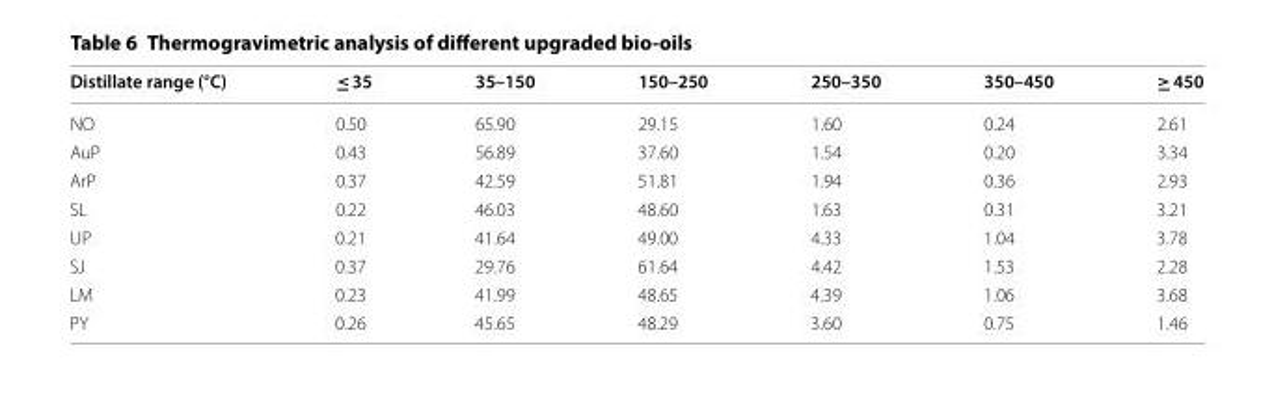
<table><thead><tr><td>Distillate range (°C)</td><td>≤ 35</td><td>35–150</td><td>150–250</td><td>250–350</td><td>350–450</td><td>≥ 450</td></tr></thead><tbody><tr><td>NO</td><td>0.50</td><td>65.90</td><td>29.15</td><td>1.60</td><td>0.24</td><td>2.61</td></tr><tr><td>AuP</td><td>0.43</td><td>56.89</td><td>37.60</td><td>1.54</td><td>0.20</td><td>3.34</td></tr><tr><td>ArP</td><td>0.37</td><td>42.59</td><td>51.81</td><td>1.94</td><td>0.36</td><td>2.93</td></tr><tr><td>SL</td><td>0.22</td><td>46.03</td><td>48.60</td><td>1.63</td><td>0.31</td><td>3.21</td></tr><tr><td>UP</td><td>0.21</td><td>41.64</td><td>49.00</td><td>4.33</td><td>1.04</td><td>3.78</td></tr><tr><td>SJ</td><td>0.37</td><td>29.76</td><td>61.64</td><td>4.42</td><td>1.53</td><td>2.28</td></tr><tr><td>LM</td><td>0.23</td><td>41.99</td><td>48.65</td><td>4.39</td><td>1.06</td><td>3.68</td></tr><tr><td>PY</td><td>0.26</td><td>45.65</td><td>48.29</td><td>3.60</td><td>0.75</td><td>1.46</td></tr></tbody></table>